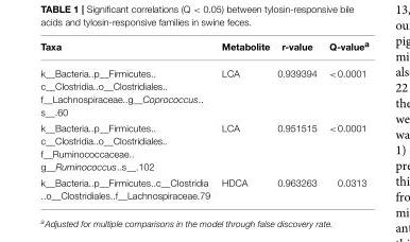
<table><thead><tr><td>Taxa</td><td>Metabolite</td><td>r-value</td><td>Q-value<sup>a</sup></td></tr></thead><tbody><tr><td>k__Bacteria..p__Firmicutes.. c__Clostridia..o__Clostridiales.. f__Lachnospiraceae..g__Coprococcus.. s__.60</td><td>LCA</td><td>0.939394</td><td>&lt;0.0001</td></tr><tr><td>k__Bacteria..p__Firmicutes.. c__Clostridia..o__Clostridiales.. f__Ruminococcaceae.. g__Ruminococcus..s__.102</td><td>LCA</td><td>0.951515</td><td>&lt;0.0001</td></tr><tr><td>k__Bacteria..p__Firmicutes..c__Clostridia ..o__Clostridiales..f__Lachnospiraceae.79</td><td>HDCA</td><td>0.963263</td><td>0.0313</td></tr></tbody></table>